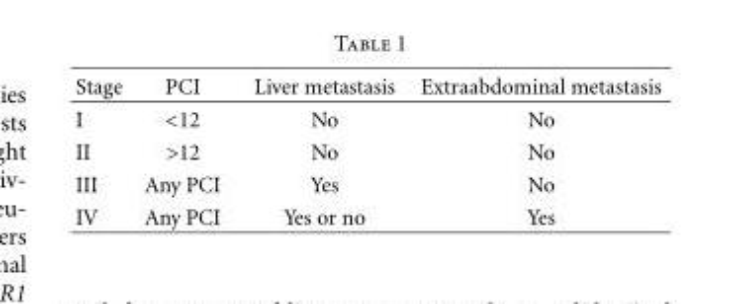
<table><thead><tr><td>Stage</td><td>PCI</td><td>Liver metastasis</td><td>Extraabdominal metastasis</td></tr></thead><tbody><tr><td>I</td><td>&lt;12</td><td>No</td><td>No</td></tr><tr><td>II</td><td>&gt;12</td><td>No</td><td>No</td></tr><tr><td>III</td><td>Any PCI</td><td>Yes</td><td>No</td></tr><tr><td>IV</td><td>Any PCI</td><td>Yes or no</td><td>Yes</td></tr></tbody></table>